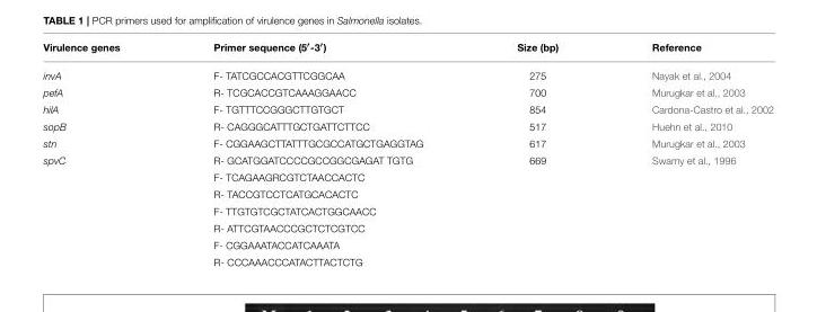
<table><thead><tr><td>Virulence genes</td><td>Primer sequence (5′-3′)</td><td>Size (bp)</td><td>Reference</td></tr></thead><tbody><tr><td>invA</td><td>F- TATCGCCACGTTCGGCAA</td><td>275</td><td>Nayak et al., 2004</td></tr><tr><td>pefA</td><td>R- TCGCACCGTCAAAGGAACC</td><td>700</td><td>Murugkar et al., 2003</td></tr><tr><td>hilA</td><td>F- TGTTTCCGGGCTTGTGCT</td><td>854</td><td>Cardona-Castro et al., 2002</td></tr><tr><td>sopB</td><td>R- CAGGGCATTTGCTGATTCTTCC</td><td>517</td><td>Huehn et al., 2010</td></tr><tr><td>stn</td><td>F- CGGAAGCTTATTTGCGCCATGCTGAGGTAG</td><td>617</td><td>Murugkar et al., 2003</td></tr><tr><td rowspan="7">spvC</td><td>R- GCATGGATCCCCGCCGGCGAGAT TGTG</td><td>669</td><td>Swamy et al., 1996</td></tr><tr><td>F- TCAGAAGRCGTCTAACCACTC</td><td></td><td></td></tr><tr><td>R- TACCGTCCTCATGCACACTC</td><td></td><td></td></tr><tr><td>F- TTGTGTCGCTATCACTGGCAACC</td><td></td><td></td></tr><tr><td>R- ATTCGTAACCCGCTCTCGTCC</td><td></td><td></td></tr><tr><td>F- CGGAAATACCATCAAATA</td><td></td><td></td></tr><tr><td>R- CCCAAACCCATACTTACTCTG</td><td></td><td></td></tr></tbody></table>